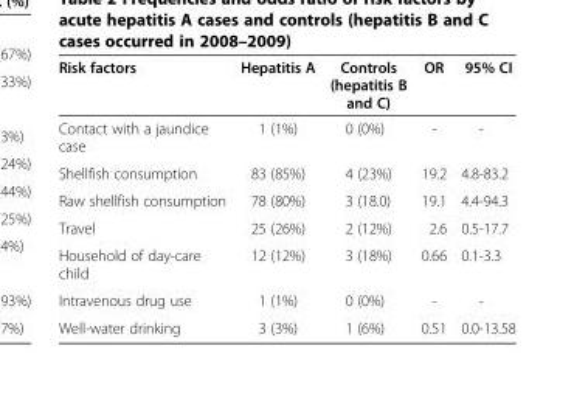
<table><thead><tr><td>Risk factors</td><td>Hepatitis A</td><td>Controls (hepatitis B and C)</td><td>OR</td><td>95% CI</td></tr></thead><tbody><tr><td>Contact with a jaundice case</td><td>1 (1%)</td><td>0 (0%)</td><td>-</td><td>-</td></tr><tr><td>Shellfish consumption</td><td>83 (85%)</td><td>4 (23%)</td><td>19.2</td><td>4.8-83.2</td></tr><tr><td>Raw shellfish consumption</td><td>78 (80%)</td><td>3 (18.0)</td><td>19.1</td><td>4.4-94.3</td></tr><tr><td>Travel</td><td>25 (26%)</td><td>2 (12%)</td><td>2.6</td><td>0.5-17.7</td></tr><tr><td>Household of day-care child</td><td>12 (12%)</td><td>3 (18%)</td><td>0.66</td><td>0.1-3.3</td></tr><tr><td>Intravenous drug use</td><td>1 (1%)</td><td>0 (0%)</td><td>-</td><td>-</td></tr><tr><td>Well-water drinking</td><td>3 (3%)</td><td>1 (6%)</td><td>0.51</td><td>0.0-13.58</td></tr></tbody></table>